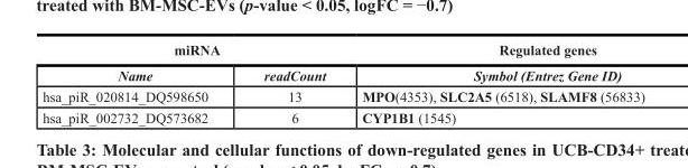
<table><thead><tr><td colspan="2">miRNA</td><td rowspan="2">Regulated genes Symbol (Entrez Gene ID)</td></tr><tr><td>Name</td><td>readCount</td></tr></thead><tbody><tr><td>hsa_piR_020814_DQ598650</td><td>13</td><td>MPO(4353), SLC2A5 (6518), SLAMF8 (56833)</td></tr><tr><td>hsa_piR_002732_DQ573682</td><td>6</td><td>CYP1B1 (1545)</td></tr></tbody></table>